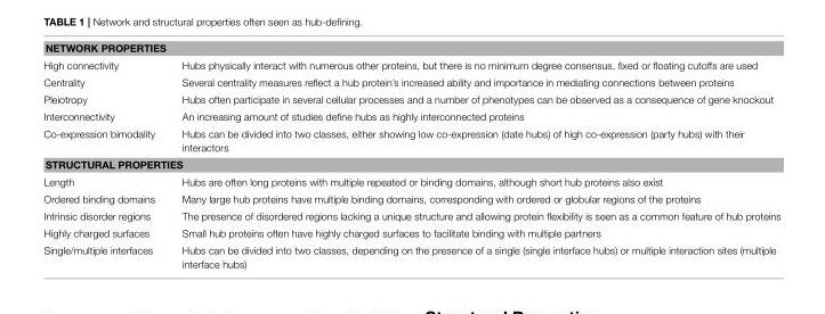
<table><tbody><tr><td colspan="2">NETWORK PROPERTIES</td></tr><tr><td>High connectivity</td><td>Hubs physically interact with numerous other proteins, but there is no minimum degree consensus, fixed or floating cutoffs are used</td></tr><tr><td>Centrality</td><td>Several centrality measures reflect a hub protein’s increased ability and importance in mediating connections between proteins</td></tr><tr><td>Pleiotropy</td><td>Hubs often participate in several cellular processes and a number of phenotypes can be observed as a consequence of gene knockout</td></tr><tr><td>Interconnectivity</td><td>An increasing amount of studies define hubs as highly interconnected proteins</td></tr><tr><td>Co-expression bimodality</td><td>Hubs can be divided into two classes, either showing low co-expression (date hubs) of high co-expression (party hubs) with their interactors</td></tr><tr><td colspan="2">STRUCTURAL PROPERTIES</td></tr><tr><td>Length</td><td>Hubs are often long proteins with multiple repeated or binding domains, although short hub proteins also exist</td></tr><tr><td>Ordered binding domains</td><td>Many large hub proteins have multiple binding domains, corresponding with ordered or globular regions of the proteins</td></tr><tr><td>Intrinsic disorder regions</td><td>The presence of disordered regions lacking a unique structure and allowing protein flexibility is seen as a common feature of hub proteins</td></tr><tr><td>Highly charged surfaces</td><td>Small hub proteins often have highly charged surfaces to facilitate binding with multiple partners</td></tr><tr><td>Single/multiple interfaces</td><td>Hubs can be divided into two classes, depending on the presence of a single (single interface hubs) or multiple interaction sites (multiple interface hubs)</td></tr></tbody></table>